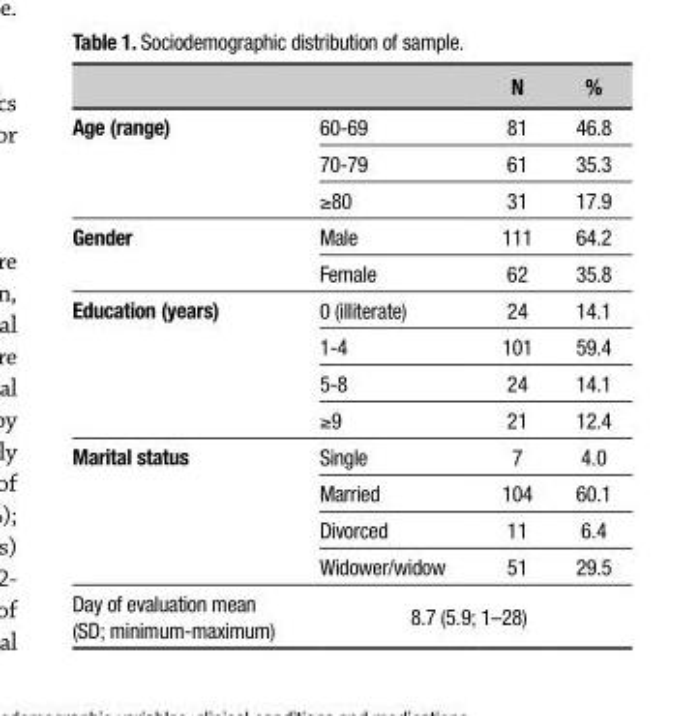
<table><thead><tr><td></td><td></td><td>N</td><td>%</td></tr></thead><tbody><tr><td rowspan="3">Age (range)</td><td>60-69</td><td>81</td><td>46.8</td></tr><tr><td>70-79</td><td>61</td><td>35.3</td></tr><tr><td>≥80</td><td>31</td><td>17.9</td></tr><tr><td rowspan="2">Gender</td><td>Male</td><td>111</td><td>64.2</td></tr><tr><td>Female</td><td>62</td><td>35.8</td></tr><tr><td rowspan="4">Education (years)</td><td>0 (illiterate)</td><td>24</td><td>14.1</td></tr><tr><td>1-4</td><td>101</td><td>59.4</td></tr><tr><td>5-8</td><td>24</td><td>14.1</td></tr><tr><td>≥9</td><td>21</td><td>12.4</td></tr><tr><td rowspan="4">Marital status</td><td>Single</td><td>7</td><td>4.0</td></tr><tr><td>Married</td><td>104</td><td>60.1</td></tr><tr><td>Divorced</td><td>11</td><td>6.4</td></tr><tr><td>Widower/widow</td><td>51</td><td>29.5</td></tr><tr><td>Day of evaluation mean (SD; minimum-maximum)</td><td colspan="3">8.7 (5.9; 1–28)</td></tr></tbody></table>